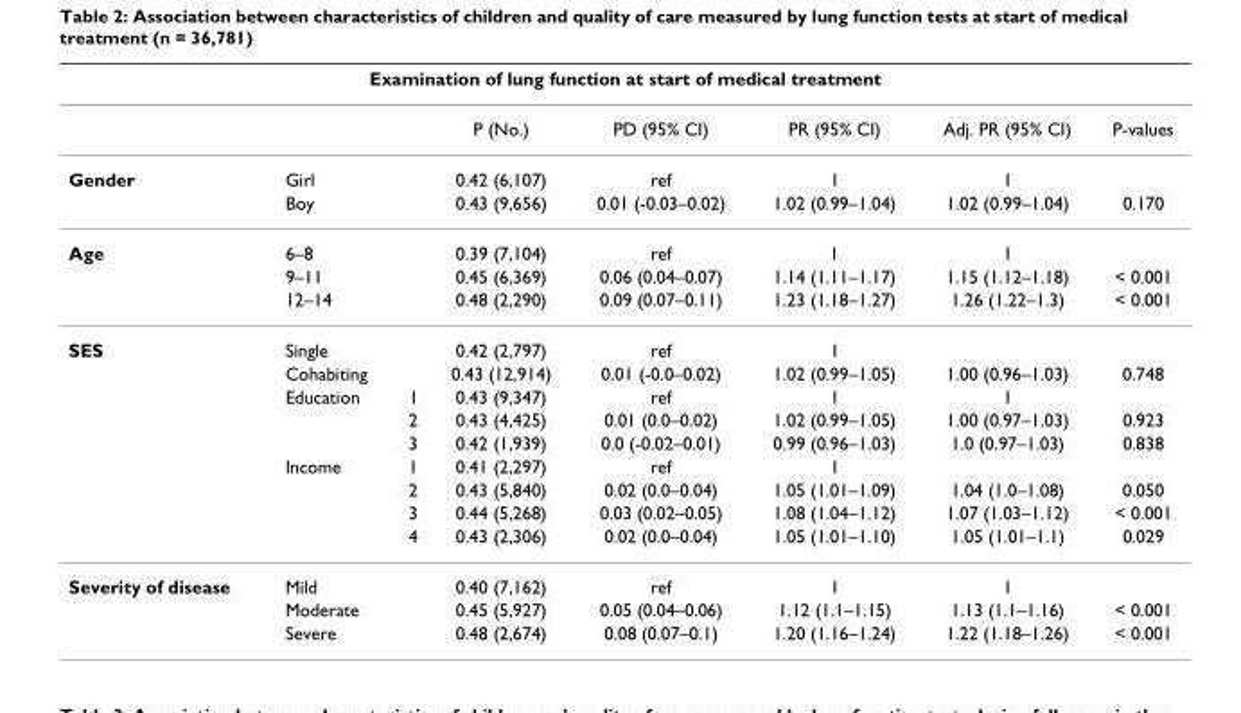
<table><thead><tr><td colspan="8">Examination of lung function at start of medical treatment</td></tr><tr><td></td><td></td><td></td><td>P (No.)</td><td>PD (95% CI)</td><td>PR (95% CI)</td><td>Adj. PR (95% CI)</td><td>P-values</td></tr></thead><tbody><tr><td rowspan="2">Gender</td><td>Girl</td><td></td><td>0.42 (6,107)</td><td>ref</td><td>1</td><td>1</td><td></td></tr><tr><td>Boy</td><td></td><td>0.43 (9,656)</td><td>0.01 (-0.03–0.02)</td><td>1.02 (0.99–1.04)</td><td>1.02 (0.99–1.04)</td><td>0.170</td></tr><tr><td rowspan="3">Age</td><td>6–8</td><td></td><td>0.39 (7,104)</td><td>ref</td><td>1</td><td>1</td><td></td></tr><tr><td>9–11</td><td></td><td>0.45 (6,369)</td><td>0.06 (0.04–0.07)</td><td>1.14 (1.11–1.17)</td><td>1.15 (1.12–1.18)</td><td>&lt; 0.001</td></tr><tr><td>12–14</td><td></td><td>0.48 (2,290)</td><td>0.09 (0.07–0.11)</td><td>1.23 (1.18–1.27)</td><td>1.26 (1.22–1.3)</td><td>&lt; 0.001</td></tr><tr><td rowspan="9">SES</td><td>Single</td><td></td><td>0.42 (2,797)</td><td>ref</td><td>1</td><td></td><td></td></tr><tr><td>Cohabiting</td><td></td><td>0.43 (12,914)</td><td>0.01 (-0.0–0.02)</td><td>1.02 (0.99–1.05)</td><td>1.00 (0.96–1.03)</td><td>0.748</td></tr><tr><td>Education</td><td>1</td><td>0.43 (9,347)</td><td>ref</td><td>1</td><td>1</td><td></td></tr><tr><td></td><td>2</td><td>0.43 (4,425)</td><td>0.01 (0.0–0.02)</td><td>1.02 (0.99–1.05)</td><td>1.00 (0.97–1.03)</td><td>0.923</td></tr><tr><td></td><td>3</td><td>0.42 (1,939)</td><td>0.0 (-0.02–0.01)</td><td>0.99 (0.96–1.03)</td><td>1.0 (0.97–1.03)</td><td>0.838</td></tr><tr><td>Income</td><td>1</td><td>0.41 (2,297)</td><td>ref</td><td>1</td><td></td><td></td></tr><tr><td></td><td>2</td><td>0.43 (5,840)</td><td>0.02 (0.0–0.04)</td><td>1.05 (1.01–1.09)</td><td>1.04 (1.0–1.08)</td><td>0.050</td></tr><tr><td></td><td>3</td><td>0.44 (5,268)</td><td>0.03 (0.02–0.05)</td><td>1.08 (1.04–1.12)</td><td>1.07 (1.03–1.12)</td><td>&lt; 0.001</td></tr><tr><td></td><td>4</td><td>0.43 (2,306)</td><td>0.02 (0.0–0.04)</td><td>1.05 (1.01–1.10)</td><td>1.05 (1.01–1.1)</td><td>0.029</td></tr><tr><td rowspan="3">Severity of disease</td><td>Mild</td><td></td><td>0.40 (7,162)</td><td>ref</td><td>1</td><td>1</td><td></td></tr><tr><td>Moderate</td><td></td><td>0.45 (5,927)</td><td>0.05 (0.04–0.06)</td><td>1.12 (1.1–1.15)</td><td>1.13 (1.1–1.16)</td><td>&lt; 0.001</td></tr><tr><td>Severe</td><td></td><td>0.48 (2,674)</td><td>0.08 (0.07–0.1)</td><td>1.20 (1.16–1.24)</td><td>1.22 (1.18–1.26)</td><td>&lt; 0.001</td></tr></tbody></table>